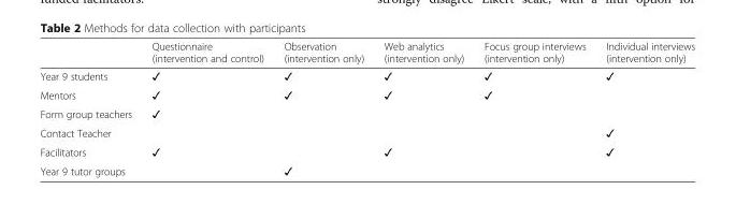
<table><thead><tr><td></td><td>Questionnaire (intervention and control)</td><td>Observation (intervention only)</td><td>Web analytics (intervention only)</td><td>Focus group interviews (intervention only)</td><td>Individual interviews (intervention only)</td></tr></thead><tbody><tr><td>Year 9 students</td><td>✓</td><td>✓</td><td>✓</td><td>✓</td><td>✓</td></tr><tr><td>Mentors</td><td>✓</td><td>✓</td><td>✓</td><td>✓</td><td></td></tr><tr><td>Form group teachers</td><td>✓</td><td></td><td></td><td></td><td></td></tr><tr><td>Contact Teacher</td><td></td><td></td><td></td><td></td><td>✓</td></tr><tr><td>Facilitators</td><td>✓</td><td></td><td>✓</td><td></td><td>✓</td></tr><tr><td>Year 9 tutor groups</td><td></td><td>✓</td><td></td><td></td><td></td></tr></tbody></table>